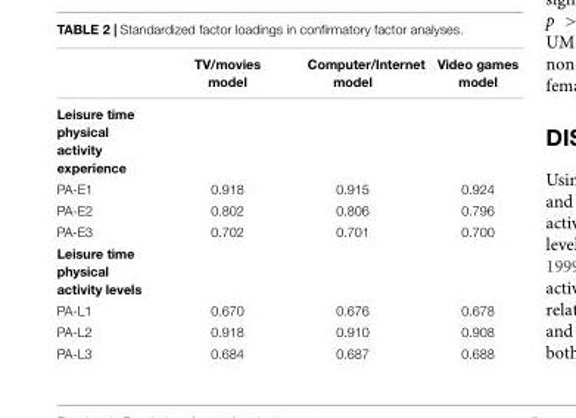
<table><thead><tr><td></td><td>TV/movies model</td><td>Computer/Internet model</td><td>Video games model</td></tr></thead><tbody><tr><td colspan="4">Leisure time physical activity experience</td></tr><tr><td>PA-E1</td><td>0.918</td><td>0.915</td><td>0.924</td></tr><tr><td>PA-E2</td><td>0.802</td><td>0.806</td><td>0.796</td></tr><tr><td>PA-E3</td><td>0.702</td><td>0.701</td><td>0.700</td></tr><tr><td colspan="4">Leisure time physical activity levels</td></tr><tr><td>PA-L1</td><td>0.670</td><td>0.676</td><td>0.678</td></tr><tr><td>PA-L2</td><td>0.918</td><td>0.910</td><td>0.908</td></tr><tr><td>PA-L3</td><td>0.684</td><td>0.687</td><td>0.688</td></tr></tbody></table>